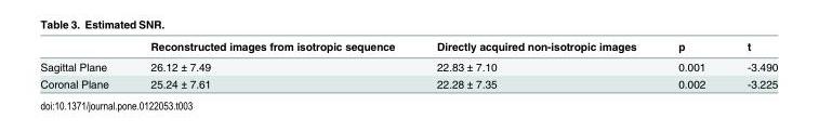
<table><thead><tr><td></td><td>Reconstructed images from isotropic sequence</td><td>Directly acquired non-isotropic images</td><td>p</td><td>t</td></tr></thead><tbody><tr><td>Sagittal Plane</td><td>26.12 ± 7.49</td><td>22.83 ± 7.10</td><td>0.001</td><td>-3.490</td></tr><tr><td>Coronal Plane</td><td>25.24 ± 7.61</td><td>22.28 ± 7.35</td><td>0.002</td><td>-3.225</td></tr></tbody></table>